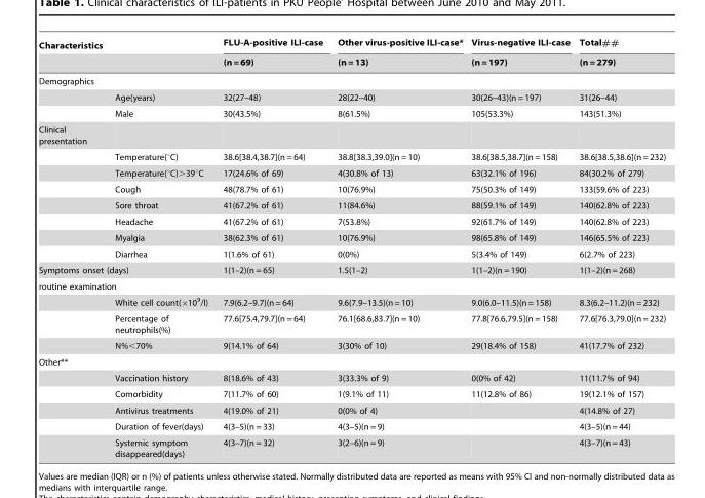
<table><thead><tr><td colspan="2">Characteristics</td><td rowspan="2">FLU-A-positive ILI-case (n = 69)</td><td rowspan="2">Other virus-positive ILI-case* (n = 13)</td><td rowspan="2">Virus-negative ILI-case (n = 197)</td><td rowspan="2">Total## (n = 279)</td></tr><tr><td></td><td></td></tr></thead><tbody><tr><td colspan="6">Demographics</td></tr><tr><td></td><td>Age(years)</td><td>32(27–48)</td><td>28(22–40)</td><td>30(26–43)(n = 197)</td><td>31(26–44)</td></tr><tr><td></td><td>Male</td><td>30(43.5%)</td><td>8(61.5%)</td><td>105(53.3%)</td><td>143(51.3%)</td></tr><tr><td colspan="6">Clinical presentation</td></tr><tr><td></td><td>Temperature(°C)</td><td>38.6[38.4,38.7](n = 64)</td><td>38.8[38.3,39.0](n = 10)</td><td>38.6[38.5,38.7](n = 158)</td><td>38.6[38.5,38.6](n = 232)</td></tr><tr><td></td><td>Temperature(°C)&gt;39°C</td><td>17(24.6% of 69)</td><td>4(30.8% of 13)</td><td>63(32.1% of 196)</td><td>84(30.2% of 279)</td></tr><tr><td></td><td>Cough</td><td>48(78.7% of 61)</td><td>10(76.9%)</td><td>75(50.3% of 149)</td><td>133(59.6% of 223)</td></tr><tr><td></td><td>Sore throat</td><td>41(67.2% of 61)</td><td>11(84.6%)</td><td>88(59.1% of 149)</td><td>140(62.8% of 223)</td></tr><tr><td></td><td>Headache</td><td>41(67.2% of 61)</td><td>7(53.8%)</td><td>92(61.7% of 149)</td><td>140(62.8% of 223)</td></tr><tr><td></td><td>Myalgia</td><td>38(62.3% of 61)</td><td>10(76.9%)</td><td>98(65.8% of 149)</td><td>146(65.5% of 223)</td></tr><tr><td></td><td>Diarrhea</td><td>1(1.6% of 61)</td><td>0(0%)</td><td>5(3.4% of 149)</td><td>6(2.7% of 223)</td></tr><tr><td colspan="2">Symptoms onset (days)</td><td>1(1–2)(n = 65)</td><td>1.5(1–2)</td><td>1(1–2)(n = 190)</td><td>1(1–2)(n = 268)</td></tr><tr><td colspan="6">routine examination</td></tr><tr><td></td><td>White cell count(×10<sup>9</sup>/l)</td><td>7.9(6.2–9.7)(n = 64)</td><td>9.6(7.9–13.5)(n = 10)</td><td>9.0(6.0–11.5)(n = 158)</td><td>8.3(6.2–11.2)(n = 232)</td></tr><tr><td></td><td>Percentage of neutrophils(%)</td><td>77.6[75.4,79.7](n = 64)</td><td>76.1[68.6,83.7](n = 10)</td><td>77.8[76.6,79.5](n = 158)</td><td>77.6[76.3,79.0](n = 232)</td></tr><tr><td></td><td>N%&lt;70%</td><td>9(14.1% of 64)</td><td>3(30% of 10)</td><td>29(18.4% of 158)</td><td>41(17.7% of 232)</td></tr><tr><td colspan="6">Other**</td></tr><tr><td></td><td>Vaccination history</td><td>8(18.6% of 43)</td><td>3(33.3% of 9)</td><td>0(0% of 42)</td><td>11(11.7% of 94)</td></tr><tr><td></td><td>Comorbidity</td><td>7(11.7% of 60)</td><td>1(9.1% of 11)</td><td>11(12.8% of 86)</td><td>19(12.1% of 157)</td></tr><tr><td></td><td>Antivirus treatments</td><td>4(19.0% of 21)</td><td>0(0% of 4)</td><td></td><td>4(14.8% of 27)</td></tr><tr><td></td><td>Duration of fever(days)</td><td>4(3–5)(n = 33)</td><td>4(3–5)(n = 9)</td><td></td><td>4(3–5)(n = 44)</td></tr><tr><td></td><td>Systemic symptom disappeared(days)</td><td>4(3–7)(n = 32)</td><td>3(2–6)(n = 9)</td><td></td><td>4(3–7)(n = 43)</td></tr></tbody></table>